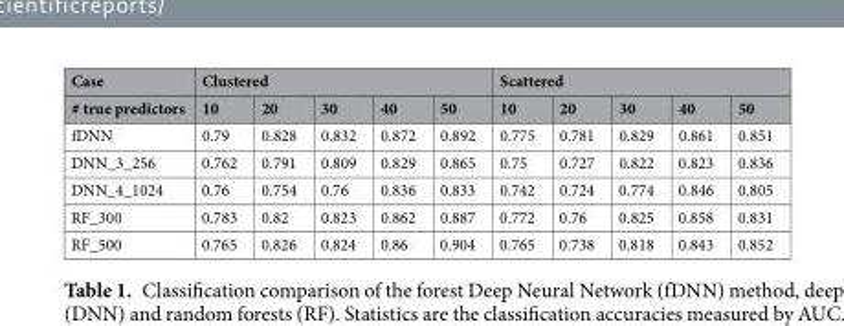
<table><thead><tr><td rowspan="2">Case # true predictors</td><td colspan="5">Clustered</td><td colspan="5">Scattered</td></tr><tr><td>10</td><td>20</td><td>30</td><td>40</td><td>50</td><td>10</td><td>20</td><td>30</td><td>40</td><td>50</td></tr></thead><tbody><tr><td>fDNN</td><td>0.79</td><td>0.828</td><td>0.832</td><td>0.872</td><td>0.892</td><td>0.775</td><td>0.781</td><td>0.829</td><td>0.861</td><td>0.851</td></tr><tr><td>DNN_3_256</td><td>0.762</td><td>0.791</td><td>0.809</td><td>0.829</td><td>0.865</td><td>0.75</td><td>0.727</td><td>0.822</td><td>0.823</td><td>0.836</td></tr><tr><td>DNN_4_1024</td><td>0.76</td><td>0.754</td><td>0.76</td><td>0.836</td><td>0.833</td><td>0.742</td><td>0.724</td><td>0.774</td><td>0.846</td><td>0.805</td></tr><tr><td>RF_300</td><td>0.783</td><td>0.82</td><td>0.823</td><td>0.862</td><td>0.887</td><td>0.772</td><td>0.76</td><td>0.825</td><td>0.858</td><td>0.831</td></tr><tr><td>RF_500</td><td>0.765</td><td>0.826</td><td>0.824</td><td>0.86</td><td>0.904</td><td>0.765</td><td>0.738</td><td>0.818</td><td>0.843</td><td>0.852</td></tr></tbody></table>